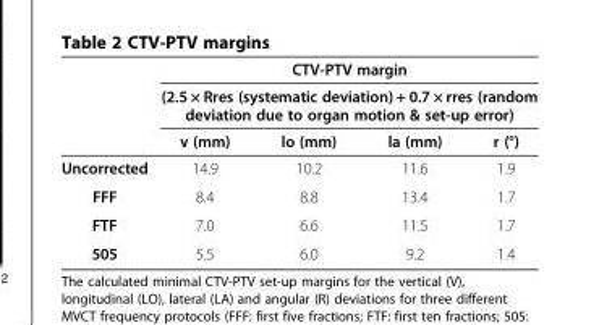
<table><thead><tr><td rowspan="3"></td><td rowspan="2" colspan="4">CTV-PTV margin (2.5 × Rres (systematic deviation) + 0.7 × rres (random deviation due to organ motion &amp; set-up error)</td></tr><tr></tr><tr><td>v (mm)</td><td>lo (mm)</td><td>la (mm)</td><td>r (°)</td></tr></thead><tbody><tr><td>Uncorrected</td><td>14.9</td><td>10.2</td><td>11.6</td><td>1.9</td></tr><tr><td>FFF</td><td>8.4</td><td>8.8</td><td>13.4</td><td>1.7</td></tr><tr><td>FTF</td><td>7.0</td><td>6.6</td><td>11.5</td><td>1.7</td></tr><tr><td>505</td><td>5.5</td><td>6.0</td><td>9.2</td><td>1.4</td></tr></tbody></table>